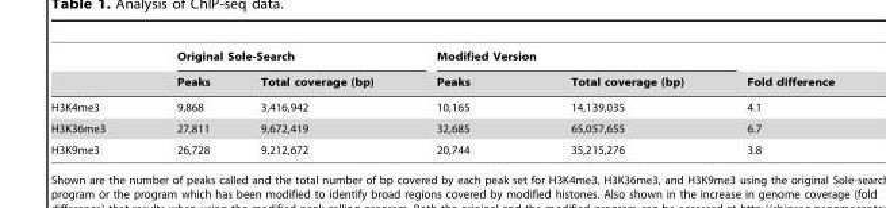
<table><thead><tr><td rowspan="2"></td><td colspan="2">Original Sole-Search</td><td colspan="2">Modified Version</td><td rowspan="2">Fold difference</td></tr><tr><td>Peaks</td><td>Total coverage (bp)</td><td>Peaks</td><td>Total coverage (bp)</td></tr></thead><tbody><tr><td>H3K4me3</td><td>9,868</td><td>3,416,942</td><td>10,165</td><td>14,139,035</td><td>4.1</td></tr><tr><td>H3K36me3</td><td>27,811</td><td>9,672,419</td><td>32,685</td><td>65,057,655</td><td>6.7</td></tr><tr><td>H3K9me3</td><td>26,728</td><td>9,212,672</td><td>20,744</td><td>35,215,276</td><td>3.8</td></tr></tbody></table>